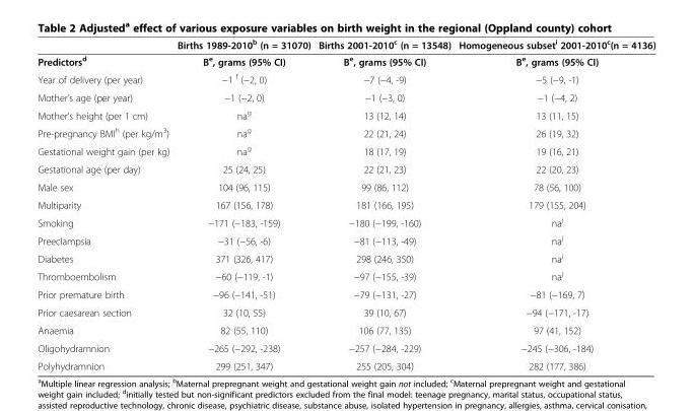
<table><thead><tr><td></td><td>Births 1989-2010<sup>b</sup> (n = 31070)</td><td>Births 2001-2010<sup>c</sup> (n = 13548)</td><td>Homogeneous subset<sup>i</sup> 2001-2010<sup>c</sup>(n = 4136)</td></tr></thead><tbody><tr><td>Predictors<sup>d</sup></td><td>B<sup>e</sup>, grams (95% CI)</td><td>B<sup>e</sup>, grams (95% CI)</td><td>B<sup>e</sup>, grams (95% CI)</td></tr><tr><td>Year of delivery (per year)</td><td>−1 <sup>f</sup> (−2, 0)</td><td>−7 (−4, -9)</td><td>−5 (−9, -1)</td></tr><tr><td>Mother’s age (per year)</td><td>−1 (−2, 0)</td><td>−1 (−3, 0)</td><td>−1 (−4, 2)</td></tr><tr><td>Mother’s height (per 1 cm)</td><td>na<sup>g</sup></td><td>13 (12, 14)</td><td>13 (11, 15)</td></tr><tr><td>Pre-pregnancy BMI<sup>h</sup> (per kg/m<sup>3</sup>)</td><td>na<sup>g</sup></td><td>22 (21, 24)</td><td>26 (19, 32)</td></tr><tr><td>Gestational weight gain (per kg)</td><td>na<sup>g</sup></td><td>18 (17, 19)</td><td>19 (16, 21)</td></tr><tr><td>Gestational age (per day)</td><td>25 (24, 25)</td><td>22 (21, 23)</td><td>22 (20, 23)</td></tr><tr><td>Male sex</td><td>104 (96, 115)</td><td>99 (86, 112)</td><td>78 (56, 100)</td></tr><tr><td>Multiparity</td><td>167 (156, 178)</td><td>181 (166, 195)</td><td>179 (155, 204)</td></tr><tr><td>Smoking</td><td>−171 (−183, -159)</td><td>−180 (−199, -160)</td><td>na<sup>j</sup></td></tr><tr><td>Preeclampsia</td><td>−31 (−56, -6)</td><td>−81 (−113, -49)</td><td>na<sup>j</sup></td></tr><tr><td>Diabetes</td><td>371 (326, 417)</td><td>298 (246, 350)</td><td>na<sup>j</sup></td></tr><tr><td>Thromboembolism</td><td>−60 (−119, -1)</td><td>−97 (−155, -39)</td><td>na<sup>j</sup></td></tr><tr><td>Prior premature birth</td><td>−96 (−141, -51)</td><td>−79 (−131, -27)</td><td>−81 (−169, 7)</td></tr><tr><td>Prior caesarean section</td><td>32 (10, 55)</td><td>39 (10, 67)</td><td>−94 (−171, -17)</td></tr><tr><td>Anaemia</td><td>82 (55, 110)</td><td>106 (77, 135)</td><td>97 (41, 152)</td></tr><tr><td>Oligohydramnion</td><td>−265 (−292, -238)</td><td>−257 (−284, -229)</td><td>−245 (−306, -184)</td></tr><tr><td>Polyhydramnion</td><td>299 (251, 347)</td><td>255 (205, 304)</td><td>282 (177, 386)</td></tr></tbody></table>